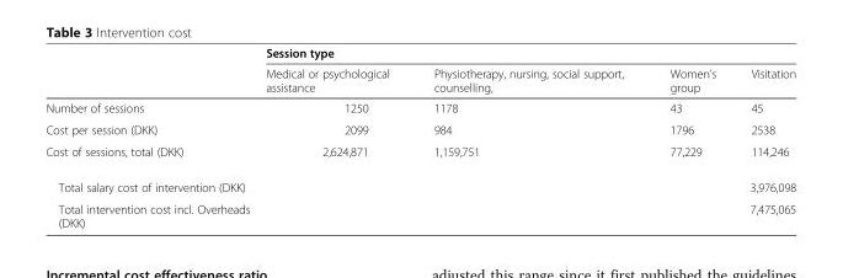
<table><thead><tr><td rowspan="2"></td><td colspan="4">Session type</td></tr><tr><td>Medical or psychological assistance</td><td>Physiotherapy, nursing, social support, counselling,</td><td>Women’s group</td><td>Visitation</td></tr></thead><tbody><tr><td>Number of sessions</td><td>1250</td><td>1178</td><td>43</td><td>45</td></tr><tr><td>Cost per session (DKK)</td><td>2099</td><td>984</td><td>1796</td><td>2538</td></tr><tr><td>Cost of sessions, total (DKK)</td><td>2,624,871</td><td>1,159,751</td><td>77,229</td><td>114,246</td></tr><tr><td>Total salary cost of intervention (DKK)</td><td colspan="4">3,976,098</td></tr><tr><td>Total intervention cost incl. Overheads (DKK)</td><td colspan="4">7,475,065</td></tr></tbody></table>